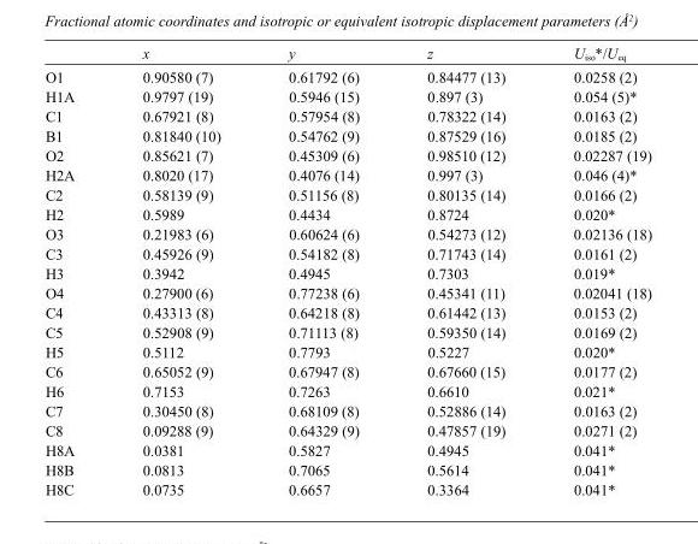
<table><thead><tr><td></td><td>x</td><td>y</td><td>z</td><td>U<sub>iso</sub>*/U<sub>eq</sub></td></tr></thead><tbody><tr><td>O1</td><td>0.90580 (7)</td><td>0.61792 (6)</td><td>0.84477 (13)</td><td>0.0258 (2)</td></tr><tr><td>H1A</td><td>0.9797 (19)</td><td>0.5946 (15)</td><td>0.897 (3)</td><td>0.054 (5)*</td></tr><tr><td>C1</td><td>0.67921 (8)</td><td>0.57954 (8)</td><td>0.78322 (14)</td><td>0.0163 (2)</td></tr><tr><td>B1</td><td>0.81840 (10)</td><td>0.54762 (9)</td><td>0.87529 (16)</td><td>0.0185 (2)</td></tr><tr><td>O2</td><td>0.85621 (7)</td><td>0.45309 (6)</td><td>0.98510 (12)</td><td>0.02287 (19)</td></tr><tr><td>H2A</td><td>0.8020 (17)</td><td>0.4076 (14)</td><td>0.997 (3)</td><td>0.046 (4)*</td></tr><tr><td>C2</td><td>0.58139 (9)</td><td>0.51156 (8)</td><td>0.80135 (14)</td><td>0.0166 (2)</td></tr><tr><td>H2</td><td>0.5989</td><td>0.4434</td><td>0.8724</td><td>0.020*</td></tr><tr><td>O3</td><td>0.21983 (6)</td><td>0.60624 (6)</td><td>0.54273 (12)</td><td>0.02136 (18)</td></tr><tr><td>C3</td><td>0.45926 (9)</td><td>0.54182 (8)</td><td>0.71743 (14)</td><td>0.0161 (2)</td></tr><tr><td>H3</td><td>0.3942</td><td>0.4945</td><td>0.7303</td><td>0.019*</td></tr><tr><td>O4</td><td>0.27900 (6)</td><td>0.77238 (6)</td><td>0.45341 (11)</td><td>0.02041 (18)</td></tr><tr><td>C4</td><td>0.43313 (8)</td><td>0.64218 (8)</td><td>0.61442 (13)</td><td>0.0153 (2)</td></tr><tr><td>C5</td><td>0.52908 (9)</td><td>0.71113 (8)</td><td>0.59350 (14)</td><td>0.0169 (2)</td></tr><tr><td>H5</td><td>0.5112</td><td>0.7793</td><td>0.5227</td><td>0.020*</td></tr><tr><td>C6</td><td>0.65052 (9)</td><td>0.67947 (8)</td><td>0.67660 (15)</td><td>0.0177 (2)</td></tr><tr><td>H6</td><td>0.7153</td><td>0.7263</td><td>0.6610</td><td>0.021*</td></tr><tr><td>C7</td><td>0.30450 (8)</td><td>0.68109 (8)</td><td>0.52886 (14)</td><td>0.0163 (2)</td></tr><tr><td>C8</td><td>0.09288 (9)</td><td>0.64329 (9)</td><td>0.47857 (19)</td><td>0.0271 (2)</td></tr><tr><td>H8A</td><td>0.0381</td><td>0.5827</td><td>0.4945</td><td>0.041*</td></tr><tr><td>H8B</td><td>0.0813</td><td>0.7065</td><td>0.5614</td><td>0.041*</td></tr><tr><td>H8C</td><td>0.0735</td><td>0.6657</td><td>0.3364</td><td>0.041*</td></tr></tbody></table>